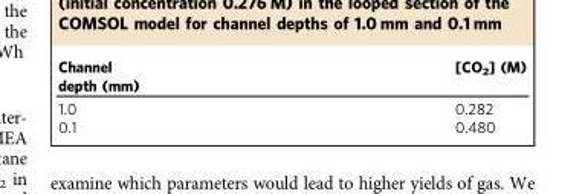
<table><thead><tr><td>Channel depth (mm)</td><td>[CO<sub>2</sub>] (M)</td></tr></thead><tbody><tr><td>1.0</td><td>0.282</td></tr><tr><td>0.1</td><td>0.480</td></tr></tbody></table>